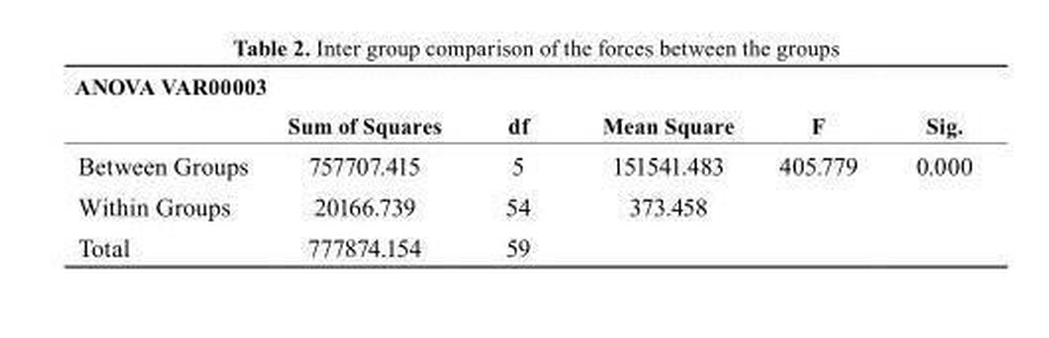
<table><thead><tr><td rowspan="2">ANOVA VAr00003</td><td rowspan="2">sum of squares</td><td rowspan="2">df</td><td rowspan="2">Mean square</td><td rowspan="2">F</td><td rowspan="2">sig.</td></tr><tr></tr></thead><tbody><tr><td>Between Groups</td><td>757707.415</td><td>5</td><td>151541.483</td><td>405.779</td><td>0.000</td></tr><tr><td>Within Groups</td><td>20166.739</td><td>54</td><td>373.458</td><td></td><td></td></tr><tr><td>Total</td><td>777874.154</td><td>59</td><td></td><td></td><td></td></tr></tbody></table>